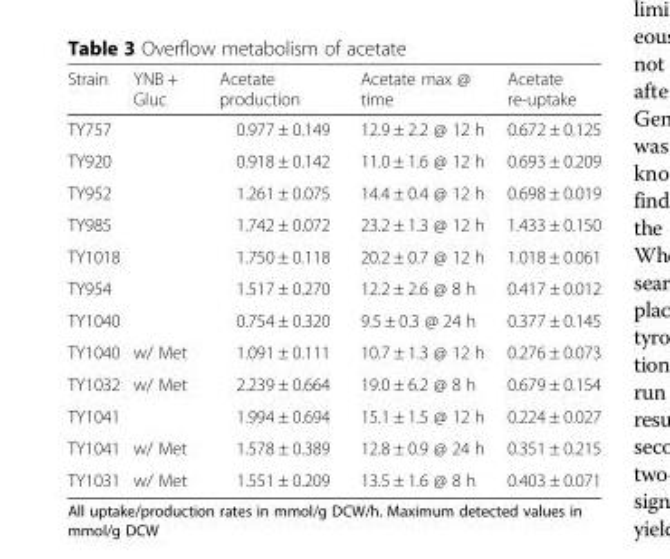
<table><thead><tr><td>Strain</td><td>YNB + Gluc</td><td>Acetate production</td><td>Acetate max @ time</td><td>Acetate re-uptake</td></tr></thead><tbody><tr><td>TY757</td><td></td><td>0.977 ± 0.149</td><td>12.9 ± 2.2 @ 12 h</td><td>0.672 ± 0.125</td></tr><tr><td>TY920</td><td></td><td>0.918 ± 0.142</td><td>11.0 ± 1.6 @ 12 h</td><td>0.693 ± 0.209</td></tr><tr><td>TY952</td><td></td><td>1.261 ± 0.075</td><td>14.4 ± 0.4 @ 12 h</td><td>0.698 ± 0.019</td></tr><tr><td>TY985</td><td></td><td>1.742 ± 0.072</td><td>23.2 ± 1.3 @ 12 h</td><td>1.433 ± 0.150</td></tr><tr><td>TY1018</td><td></td><td>1.750 ± 0.118</td><td>20.2 ± 0.7 @ 12 h</td><td>1.018 ± 0.061</td></tr><tr><td>TY954</td><td></td><td>1.517 ± 0.270</td><td>12.2 ± 2.6 @ 8 h</td><td>0.417 ± 0.012</td></tr><tr><td>TY1040</td><td></td><td>0.754 ± 0.320</td><td>9.5 ± 0.3 @ 24 h</td><td>0.377 ± 0.145</td></tr><tr><td>TY1040</td><td>w/ Met</td><td>1.091 ± 0.111</td><td>10.7 ± 1.3 @ 12 h</td><td>0.276 ± 0.073</td></tr><tr><td>TY1032</td><td>w/ Met</td><td>2.239 ± 0.664</td><td>19.0 ± 6.2 @ 8 h</td><td>0.679 ± 0.154</td></tr><tr><td>TY1041</td><td></td><td>1.994 ± 0.694</td><td>15.1 ± 1.5 @ 12 h</td><td>0.224 ± 0.027</td></tr><tr><td>TY1041</td><td>w/ Met</td><td>1.578 ± 0.389</td><td>12.8 ± 0.9 @ 24 h</td><td>0.351 ± 0.215</td></tr><tr><td>TY1031</td><td>w/ Met</td><td>1.551 ± 0.209</td><td>13.5 ± 1.6 @ 8 h</td><td>0.403 ± 0.071</td></tr></tbody></table>